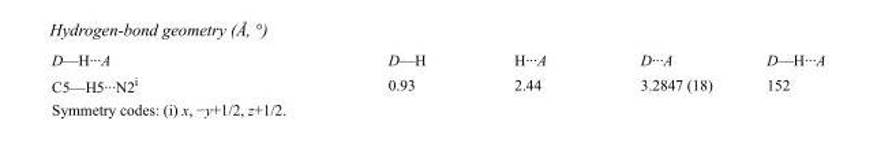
<table><tbody><tr><td>D—H···A</td><td>D—H</td><td>H···A</td><td>D···A</td><td>D—H···A</td></tr><tr><td>C5—H5···N2<sup>i</sup></td><td>0.93</td><td>2.44</td><td>3.2847 (18)</td><td>152</td></tr></tbody></table>